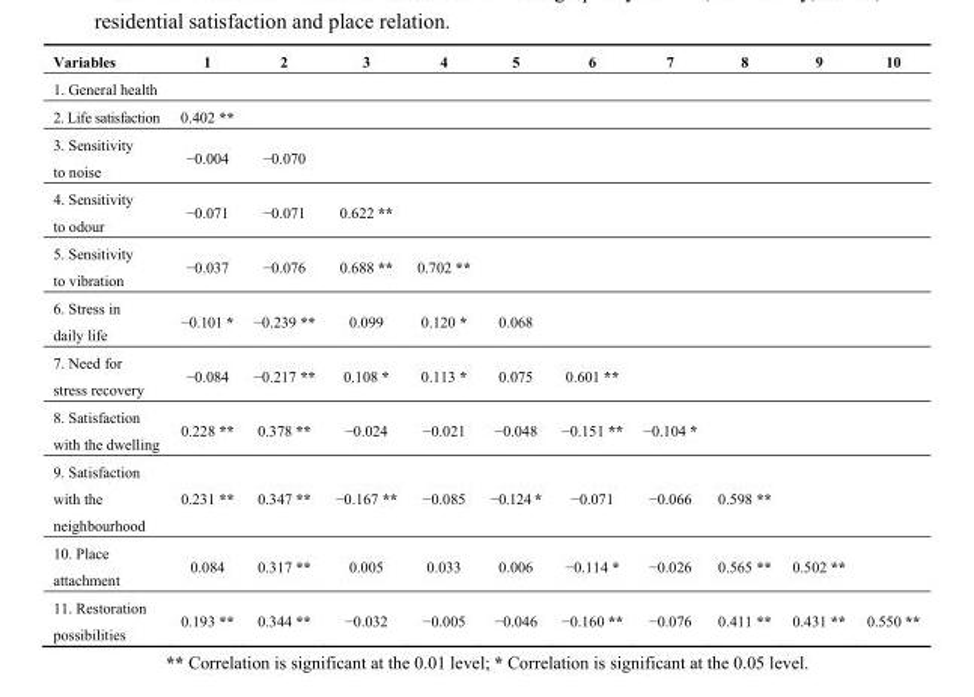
<table><thead><tr><td>Variables</td><td>1</td><td>2</td><td>3</td><td>4</td><td>5</td><td>6</td><td>7</td><td>8</td><td>9</td><td>10</td></tr></thead><tbody><tr><td colspan="11">1. General health</td></tr><tr><td>2. Life satisfaction</td><td>0.402 **</td><td></td><td></td><td></td><td></td><td></td><td></td><td></td><td></td><td></td></tr><tr><td>3. Sensitivity to noise</td><td>−0.004</td><td>−0.070</td><td></td><td></td><td></td><td></td><td></td><td></td><td></td><td></td></tr><tr><td>4. Sensitivity to odour</td><td>−0.071</td><td>−0.071</td><td>0.622 **</td><td></td><td></td><td></td><td></td><td></td><td></td><td></td></tr><tr><td>5. Sensitivity to vibration</td><td>−0.037</td><td>−0.076</td><td>0.688 **</td><td>0.702 **</td><td></td><td></td><td></td><td></td><td></td><td></td></tr><tr><td>6. Stress in daily life</td><td>−0.101 *</td><td>−0.239 **</td><td>0.099</td><td>0.120 *</td><td>0.068</td><td></td><td></td><td></td><td></td><td></td></tr><tr><td>7. Need for stress recovery</td><td>−0.084</td><td>−0.217 **</td><td>0.108 *</td><td>0.113 *</td><td>0.075</td><td>0.601 **</td><td></td><td></td><td></td><td></td></tr><tr><td>8. Satisfaction with the dwelling</td><td>0.228 **</td><td>0.378 **</td><td>−0.024</td><td>−0.021</td><td>−0.048</td><td>−0.151 **</td><td>−0.104 *</td><td></td><td></td><td></td></tr><tr><td>9. Satisfaction with the neighbourhood</td><td>0.231 **</td><td>0.347 **</td><td>−0.167 **</td><td>−0.085</td><td>−0.124 *</td><td>−0.071</td><td>−0.066</td><td>0.598 **</td><td></td><td></td></tr><tr><td>10. Place attachment</td><td>0.084</td><td>0.317 **</td><td>0.005</td><td>0.033</td><td>0.006</td><td>−0.114 *</td><td>−0.026</td><td>0.565 **</td><td>0.502 **</td><td></td></tr><tr><td>11. Restoration possibilities</td><td>0.193 **</td><td>0.344 **</td><td>−0.032</td><td>−0.005</td><td>−0.046</td><td>−0.160 **</td><td>−0.076</td><td>0.411 **</td><td>0.431 **</td><td>0.550 **</td></tr></tbody></table>